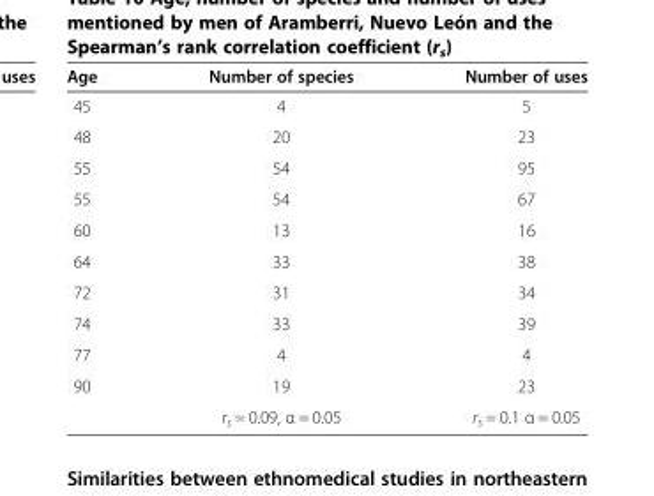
<table><thead><tr><td>Age</td><td>Number of species</td><td>Number of uses</td></tr></thead><tbody><tr><td>45</td><td>4</td><td>5</td></tr><tr><td>48</td><td>20</td><td>23</td></tr><tr><td>55</td><td>54</td><td>95</td></tr><tr><td>55</td><td>54</td><td>67</td></tr><tr><td>60</td><td>13</td><td>16</td></tr><tr><td>64</td><td>33</td><td>38</td></tr><tr><td>72</td><td>31</td><td>34</td></tr><tr><td>74</td><td>33</td><td>39</td></tr><tr><td>77</td><td>4</td><td>4</td></tr><tr><td rowspan="2">90</td><td>19</td><td>23</td></tr><tr><td>r<sub>s</sub> = 0.09, α = 0.05</td><td>r<sub>s</sub> = 0.1 α = 0.05</td></tr></tbody></table>